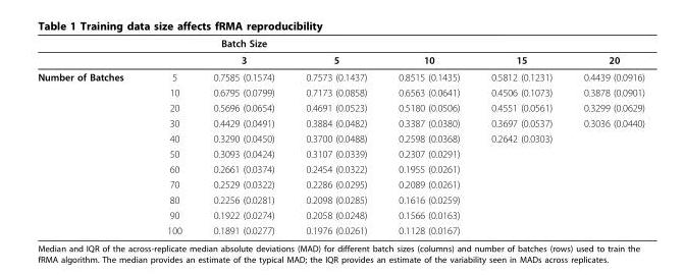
<table><thead><tr><td></td><td></td><td>Batch Size</td><td></td><td></td><td></td><td></td></tr></thead><tbody><tr><td></td><td></td><td>3</td><td>5</td><td>10</td><td>15</td><td>20</td></tr><tr><td rowspan="11">Number of Batches</td><td>5</td><td>0.7585 (0.1574)</td><td>0.7573 (0.1437)</td><td>0.8515 (0.1435)</td><td>0.5812 (0.1231)</td><td>0.4439 (0.0916)</td></tr><tr><td>10</td><td>0.6795 (0.0799)</td><td>0.7173 (0.0858)</td><td>0.6563 (0.0641)</td><td>0.4506 (0.1073)</td><td>0.3878 (0.0901)</td></tr><tr><td>20</td><td>0.5696 (0.0654)</td><td>0.4691 (0.0523)</td><td>0.5180 (0.0506)</td><td>0.4551 (0.0561)</td><td>0.3299 (0.0629)</td></tr><tr><td>30</td><td>0.4429 (0.0491)</td><td>0.3884 (0.0482)</td><td>0.3387 (0.0380)</td><td>0.3697 (0.0537)</td><td>0.3036 (0.0440)</td></tr><tr><td>40</td><td>0.3290 (0.0450)</td><td>0.3700 (0.0488)</td><td>0.2598 (0.0368)</td><td>0.2642 (0.0303)</td><td></td></tr><tr><td>50</td><td>0.3093 (0.0424)</td><td>0.3107 (0.0339)</td><td>0.2307 (0.0291)</td><td></td><td></td></tr><tr><td>60</td><td>0.2661 (0.0374)</td><td>0.2454 (0.0322)</td><td>0.1955 (0.0261)</td><td></td><td></td></tr><tr><td>70</td><td>0.2529 (0.0322)</td><td>0.2286 (0.0295)</td><td>0.2089 (0.0261)</td><td></td><td></td></tr><tr><td>80</td><td>0.2256 (0.0281)</td><td>0.2098 (0.0285)</td><td>0.1616 (0.0259)</td><td></td><td></td></tr><tr><td>90</td><td>0.1922 (0.0274)</td><td>0.2058 (0.0248)</td><td>0.1566 (0.0163)</td><td></td><td></td></tr><tr><td>100</td><td>0.1891 (0.0277)</td><td>0.1976 (0.0261)</td><td>0.1128 (0.0167)</td><td></td><td></td></tr></tbody></table>